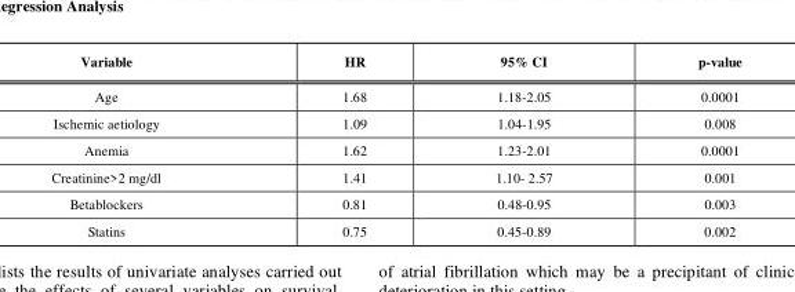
<table><thead><tr><td>Variable</td><td>HR</td><td>95% CI</td><td>p-value</td></tr></thead><tbody><tr><td>Age</td><td>1.68</td><td>1.18-2.05</td><td>0.0001</td></tr><tr><td>Ischemic aetiology</td><td>1.09</td><td>1.04-1.95</td><td>0.008</td></tr><tr><td>Anemia</td><td>1.62</td><td>1.23-2.01</td><td>0.0001</td></tr><tr><td>Creatinine&gt;2 mg/dl</td><td>1.41</td><td>1.10- 2.57</td><td>0.001</td></tr><tr><td>Betablockers</td><td>0.81</td><td>0.48-0.95</td><td>0.003</td></tr><tr><td>Statins</td><td>0.75</td><td>0.45-0.89</td><td>0.002</td></tr></tbody></table>